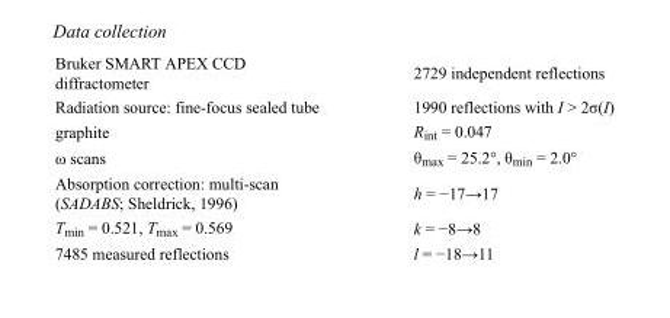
<table><tbody><tr><td>Bruker SMART APEX CCD diffractometer</td><td>2729 independent reflections</td></tr><tr><td>Radiation source: fine-focus sealed tube</td><td>1990 reflections with I &gt; 2σ(I)</td></tr><tr><td>graphite</td><td>R<sub>int</sub> = 0.047</td></tr><tr><td>ω scans</td><td>θ<sub>max</sub> = 25.2°, θ<sub>min</sub> = 2.0°</td></tr><tr><td>Absorption correction: multi-scan (SADABS; Sheldrick, 1996)</td><td>h = −17→17</td></tr><tr><td>T<sub>min</sub> = 0.521, T<sub>max</sub> = 0.569</td><td>k = −8→8</td></tr><tr><td>7485 measured reflections</td><td>l = −18→11</td></tr></tbody></table>